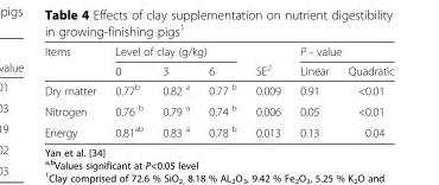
<table><thead><tr><td rowspan="2">Items</td><td colspan="3">Level of clay (g/kg)</td><td rowspan="2">SE<sup>2</sup></td><td colspan="2">P - value</td></tr><tr><td>0</td><td>3</td><td>6</td><td>Linear</td><td>Quadratic</td></tr></thead><tbody><tr><td>Dry matter</td><td>0.77<sup>b</sup></td><td>0.82 <sup>a</sup></td><td>0.77 <sup>b</sup></td><td>0.009</td><td>0.91</td><td>&lt;0.01</td></tr><tr><td>Nitrogen</td><td>0.76 <sup>b</sup></td><td>0.79 <sup>a</sup></td><td>0.74 <sup>b</sup></td><td>0.006</td><td>0.05</td><td>&lt;0.01</td></tr><tr><td>Energy</td><td>0.81<sup>ab</sup></td><td>0.83 <sup>a</sup></td><td>0.78 <sup>b</sup></td><td>0.013</td><td>0.13</td><td>0.04</td></tr></tbody></table>